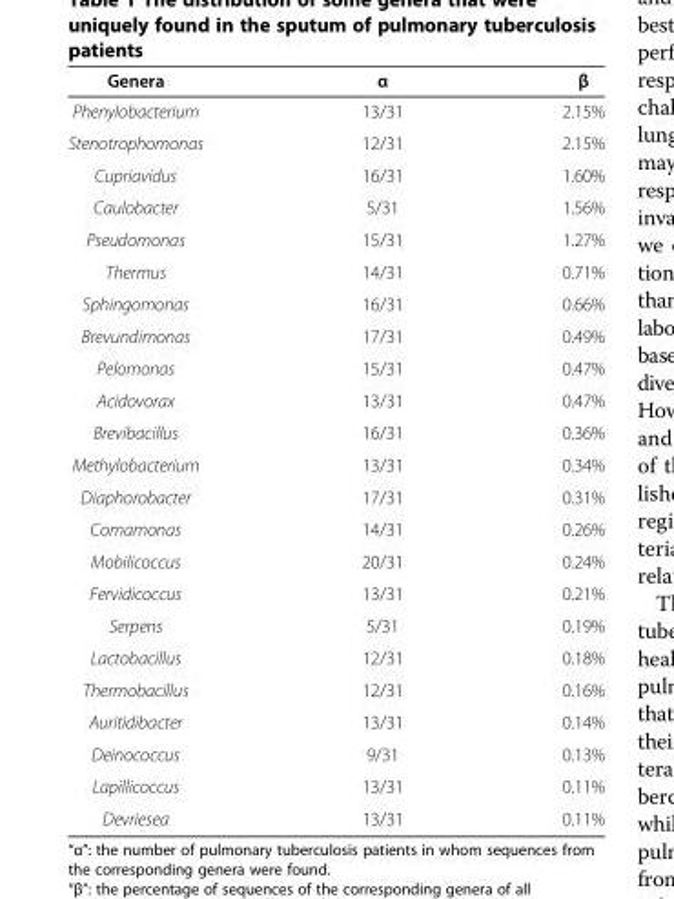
<table><thead><tr><td>Genera</td><td>α</td><td>β</td></tr></thead><tbody><tr><td>Phenylobacterium</td><td>13/31</td><td>2.15%</td></tr><tr><td>Stenotrophomonas</td><td>12/31</td><td>2.15%</td></tr><tr><td>Cupriavidus</td><td>16/31</td><td>1.60%</td></tr><tr><td>Caulobacter</td><td>5/31</td><td>1.56%</td></tr><tr><td>Pseudomonas</td><td>15/31</td><td>1.27%</td></tr><tr><td>Thermus</td><td>14/31</td><td>0.71%</td></tr><tr><td>Sphingomonas</td><td>16/31</td><td>0.66%</td></tr><tr><td>Brevundimonas</td><td>17/31</td><td>0.49%</td></tr><tr><td>Pelomonas</td><td>15/31</td><td>0.47%</td></tr><tr><td>Acidovorax</td><td>13/31</td><td>0.47%</td></tr><tr><td>Brevibacillus</td><td>16/31</td><td>0.36%</td></tr><tr><td>Methylobacterium</td><td>13/31</td><td>0.34%</td></tr><tr><td>Diaphorobacter</td><td>17/31</td><td>0.31%</td></tr><tr><td>Comamonas</td><td>14/31</td><td>0.26%</td></tr><tr><td>Mobilicoccus</td><td>20/31</td><td>0.24%</td></tr><tr><td>Fervidicoccus</td><td>13/31</td><td>0.21%</td></tr><tr><td>Serpens</td><td>5/31</td><td>0.19%</td></tr><tr><td>Lactobacillus</td><td>12/31</td><td>0.18%</td></tr><tr><td>Thermobacillus</td><td>12/31</td><td>0.16%</td></tr><tr><td>Auritidibacter</td><td>13/31</td><td>0.14%</td></tr><tr><td>Deinococcus</td><td>9/31</td><td>0.13%</td></tr><tr><td>Lapillicoccus</td><td>13/31</td><td>0.11%</td></tr><tr><td>Devriesea</td><td>13/31</td><td>0.11%</td></tr></tbody></table>